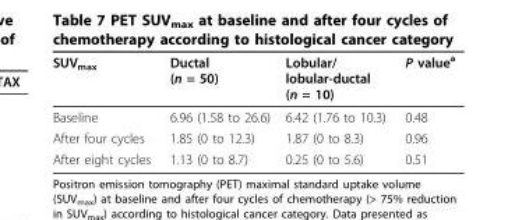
<table><thead><tr><td>SUV<sub>max</sub></td><td>Ductal (n = 50)</td><td>Lobular/ lobular-ductal (n = 10)</td><td>P value<sup>a</sup></td></tr></thead><tbody><tr><td>Baseline</td><td>6.96 (1.58 to 26.6)</td><td>6.42 (1.76 to 10.3)</td><td>0.48</td></tr><tr><td>After four cycles</td><td>1.85 (0 to 12.3)</td><td>1.87 (0 to 8.3)</td><td>0.96</td></tr><tr><td>After eight cycles</td><td>1.13 (0 to 8.7)</td><td>0.25 (0 to 5.6)</td><td>0.51</td></tr></tbody></table>